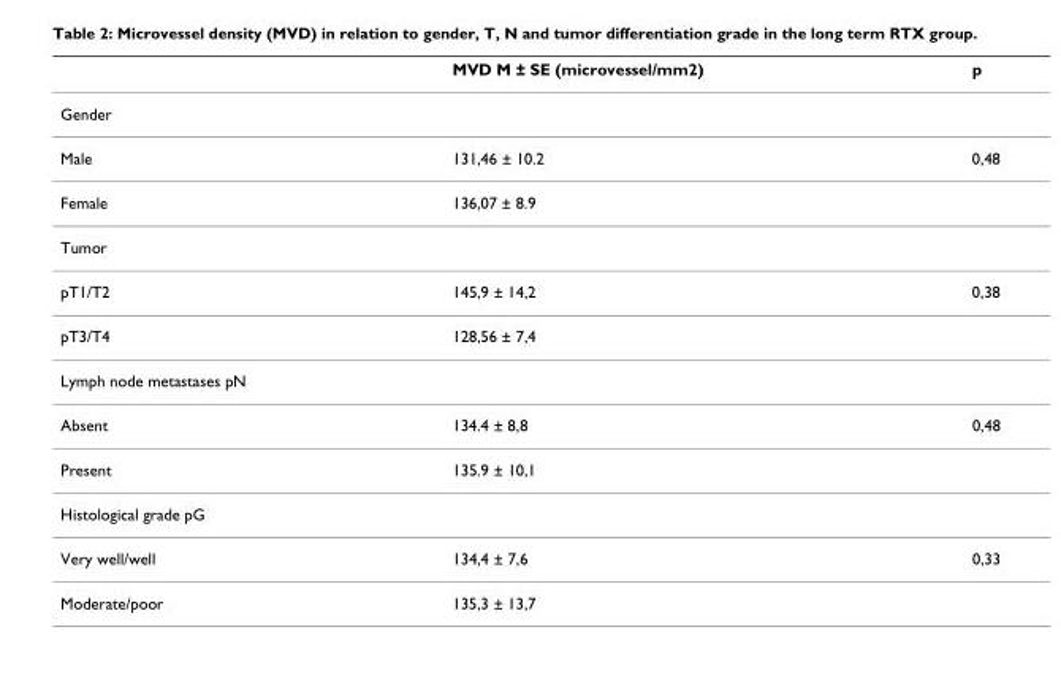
<table><thead><tr><td></td><td>MVD M ± SE (microvessel/mm2)</td><td>p</td></tr></thead><tbody><tr><td colspan="3">Gender</td></tr><tr><td>Male</td><td>131,46 ± 10.2</td><td>0,48</td></tr><tr><td>Female</td><td>136,07 ± 8.9</td><td></td></tr><tr><td colspan="3">Tumor</td></tr><tr><td>pT1/T2</td><td>145,9 ± 14,2</td><td>0,38</td></tr><tr><td>pT3/T4</td><td>128,56 ± 7,4</td><td></td></tr><tr><td colspan="3">Lymph node metastases pN</td></tr><tr><td>Absent</td><td>134.4 ± 8,8</td><td>0,48</td></tr><tr><td>Present</td><td>135.9 ± 10,1</td><td></td></tr><tr><td colspan="3">Histological grade pG</td></tr><tr><td>Very well/well</td><td>134,4 ± 7,6</td><td>0,33</td></tr><tr><td>Moderate/poor</td><td>135,3 ± 13,7</td><td></td></tr></tbody></table>